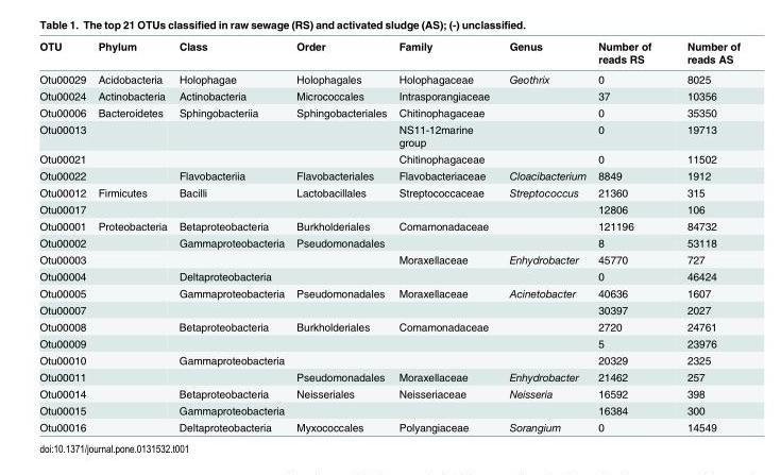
<table><thead><tr><td>OTU</td><td>Phylum</td><td>Class</td><td>Order</td><td>Family</td><td>Genus</td><td>Number of reads RS</td><td>Number of reads AS</td></tr></thead><tbody><tr><td>Otu00029</td><td>Acidobacteria</td><td>Holophagae</td><td>Holophagales</td><td>Holophagaceae</td><td>Geothrix</td><td>0</td><td>8025</td></tr><tr><td>Otu00024</td><td>Actinobacteria</td><td>Actinobacteria</td><td>Micrococcales</td><td>Intrasporangiaceae</td><td></td><td>37</td><td>10356</td></tr><tr><td>Otu00006</td><td>Bacteroidetes</td><td>Sphingobacteriia</td><td>Sphingobacteriales</td><td>Chitinophagaceae</td><td></td><td>0</td><td>35350</td></tr><tr><td>Otu00013</td><td></td><td></td><td></td><td>NS11-12marine group</td><td></td><td>0</td><td>19713</td></tr><tr><td>Otu00021</td><td></td><td></td><td></td><td>Chitinophagaceae</td><td></td><td>0</td><td>11502</td></tr><tr><td>Otu00022</td><td></td><td>Flavobacteriia</td><td>Flavobacteriales</td><td>Flavobacteriaceae</td><td>Cloacibacterium</td><td>8849</td><td>1912</td></tr><tr><td>Otu00012</td><td>Firmicutes</td><td>Bacilli</td><td>Lactobacillales</td><td>Streptococcaceae</td><td>Streptococcus</td><td>21360</td><td>315</td></tr><tr><td>Otu00017</td><td></td><td></td><td></td><td></td><td></td><td>12806</td><td>106</td></tr><tr><td>Otu00001</td><td>Proteobacteria</td><td>Betaproteobacteria</td><td>Burkholderiales</td><td>Comamonadaceae</td><td></td><td>121196</td><td>84732</td></tr><tr><td>Otu00002</td><td></td><td>Gammaproteobacteria</td><td>Pseudomonadales</td><td></td><td></td><td>8</td><td>53118</td></tr><tr><td>Otu00003</td><td></td><td></td><td></td><td>Moraxellaceae</td><td>Enhydrobacter</td><td>45770</td><td>727</td></tr><tr><td>Otu00004</td><td></td><td>Deltaproteobacteria</td><td></td><td></td><td></td><td>0</td><td>46424</td></tr><tr><td>Otu00005</td><td></td><td>Gammaproteobacteria</td><td>Pseudomonadales</td><td>Moraxellaceae</td><td>Acinetobacter</td><td>40636</td><td>1607</td></tr><tr><td>Otu00007</td><td></td><td></td><td></td><td></td><td></td><td>30397</td><td>2027</td></tr><tr><td>Otu00008</td><td></td><td>Betaproteobacteria</td><td>Burkholderiales</td><td>Comamonadaceae</td><td></td><td>2720</td><td>24761</td></tr><tr><td>Otu00009</td><td></td><td></td><td></td><td></td><td></td><td>5</td><td>23976</td></tr><tr><td>Otu00010</td><td></td><td>Gammaproteobacteria</td><td></td><td></td><td></td><td>20329</td><td>2325</td></tr><tr><td>Otu00011</td><td></td><td></td><td>Pseudomonadales</td><td>Moraxellaceae</td><td>Enhydrobacter</td><td>21462</td><td>257</td></tr><tr><td>Otu00014</td><td></td><td>Betaproteobacteria</td><td>Neisseriales</td><td>Neisseriaceae</td><td>Neisseria</td><td>16592</td><td>398</td></tr><tr><td>Otu00015</td><td></td><td>Gammaproteobacteria</td><td></td><td></td><td></td><td>16384</td><td>300</td></tr><tr><td>Otu00016</td><td></td><td>Deltaproteobacteria</td><td>Myxococcales</td><td>Polyangiaceae</td><td>Sorangium</td><td>0</td><td>14549</td></tr></tbody></table>